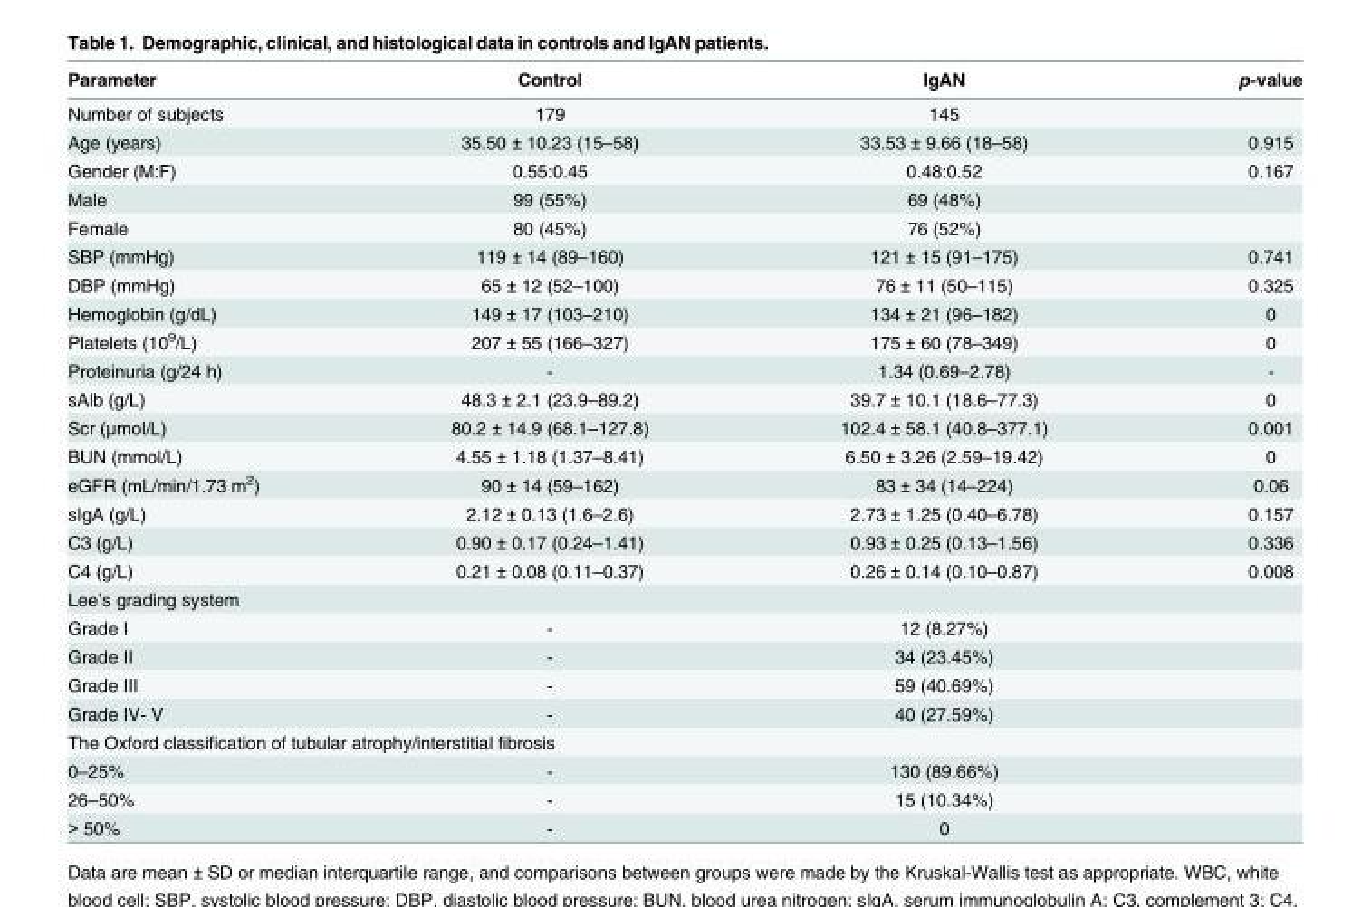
<table><thead><tr><td>Parameter</td><td>Control</td><td>IgAN</td><td>p-value</td></tr></thead><tbody><tr><td>Number of subjects</td><td>179</td><td>145</td><td></td></tr><tr><td>Age (years)</td><td>35.50 ± 10.23 (15–58)</td><td>33.53 ± 9.66 (18–58)</td><td>0.915</td></tr><tr><td>Gender (M:F)</td><td>0.55:0.45</td><td>0.48:0.52</td><td>0.167</td></tr><tr><td>Male</td><td>99 (55%)</td><td>69 (48%)</td><td></td></tr><tr><td>Female</td><td>80 (45%)</td><td>76 (52%)</td><td></td></tr><tr><td>SBP (mmHg)</td><td>119 ± 14 (89–160)</td><td>121 ± 15 (91–175)</td><td>0.741</td></tr><tr><td>DBP (mmHg)</td><td>65 ± 12 (52–100)</td><td>76 ± 11 (50–115)</td><td>0.325</td></tr><tr><td>Hemoglobin (g/dL)</td><td>149 ± 17 (103–210)</td><td>134 ± 21 (96–182)</td><td>0</td></tr><tr><td>Platelets (10<sup>9</sup>/L)</td><td>207 ± 55 (166–327)</td><td>175 ± 60 (78–349)</td><td>0</td></tr><tr><td>Proteinuria (g/24 h)</td><td>-</td><td>1.34 (0.69–2.78)</td><td>-</td></tr><tr><td>sAlb (g/L)</td><td>48.3 ± 2.1 (23.9–89.2)</td><td>39.7 ± 10.1 (18.6–77.3)</td><td>0</td></tr><tr><td>Scr (μmol/L)</td><td>80.2 ± 14.9 (68.1–127.8)</td><td>102.4 ± 58.1 (40.8–377.1)</td><td>0.001</td></tr><tr><td>BUN (mmol/L)</td><td>4.55 ± 1.18 (1.37–8.41)</td><td>6.50 ± 3.26 (2.59–19.42)</td><td>0</td></tr><tr><td>eGFR (mL/min/1.73 m<sup>2</sup>)</td><td>90 ± 14 (59–162)</td><td>83 ± 34 (14–224)</td><td>0.06</td></tr><tr><td>sIgA (g/L)</td><td>2.12 ± 0.13 (1.6–2.6)</td><td>2.73 ± 1.25 (0.40–6.78)</td><td>0.157</td></tr><tr><td>C3 (g/L)</td><td>0.90 ± 0.17 (0.24–1.41)</td><td>0.93 ± 0.25 (0.13–1.56)</td><td>0.336</td></tr><tr><td>C4 (g/L)</td><td>0.21 ± 0.08 (0.11–0.37)</td><td>0.26 ± 0.14 (0.10–0.87)</td><td>0.008</td></tr><tr><td colspan="4">Lee’s grading system</td></tr><tr><td>Grade I</td><td>-</td><td>12 (8.27%)</td><td></td></tr><tr><td>Grade II</td><td>-</td><td>34 (23.45%)</td><td></td></tr><tr><td>Grade III</td><td>-</td><td>59 (40.69%)</td><td></td></tr><tr><td>Grade IV- V</td><td>-</td><td>40 (27.59%)</td><td></td></tr><tr><td colspan="4">The Oxford classification of tubular atrophy/interstitial fibrosis</td></tr><tr><td>0–25%</td><td>-</td><td>130 (89.66%)</td><td></td></tr><tr><td>26–50%</td><td>-</td><td>15 (10.34%)</td><td></td></tr><tr><td>&gt; 50%</td><td>-</td><td>0</td><td></td></tr></tbody></table>